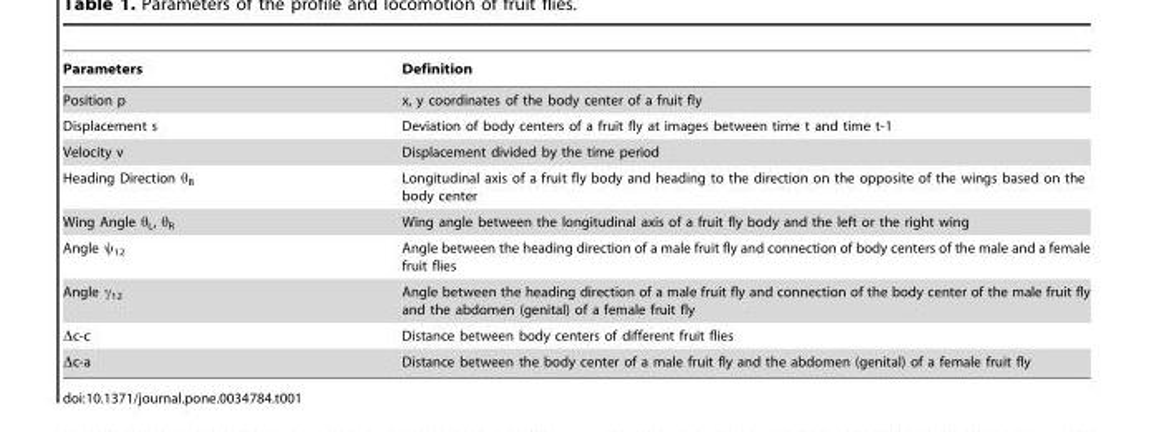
<table><thead><tr><td>Parameters</td><td>Definition</td></tr></thead><tbody><tr><td>Position p</td><td>x, y coordinates of the body center of a fruit fly</td></tr><tr><td>Displacement s</td><td>Deviation of body centers of a fruit fly at images between time t and time t-1</td></tr><tr><td>Velocity v</td><td>Displacement divided by the time period</td></tr><tr><td>Heading Direction θ<sub>B</sub></td><td>Longitudinal axis of a fruit fly body and heading to the direction on the opposite of the wings based on the body center</td></tr><tr><td>Wing Angle θ<sub>L</sub>, θ<sub>R</sub></td><td>Wing angle between the longitudinal axis of a fruit fly body and the left or the right wing</td></tr><tr><td>Angle ψ<sub>12</sub></td><td>Angle between the heading direction of a male fruit fly and connection of body centers of the male and a female fruit flies</td></tr><tr><td>Angle γ<sub>12</sub></td><td>Angle between the heading direction of a male fruit fly and connection of the body center of the male fruit fly and the abdomen (genital) of a female fruit fly</td></tr><tr><td>Δc-c</td><td>Distance between body centers of different fruit flies</td></tr><tr><td>Δc-a</td><td>Distance between the body center of a male fruit fly and the abdomen (genital) of a female fruit fly</td></tr></tbody></table>